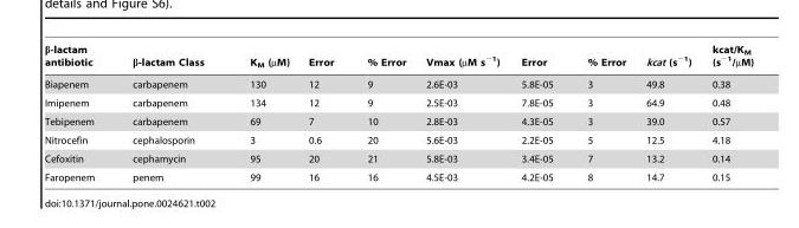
<table><thead><tr><td>β-lactam antibiotic</td><td>β-lactam Class</td><td>K<sub>M</sub> (µM)</td><td>Error</td><td>% Error</td><td>Vmax (µM s<sup>−1</sup>)</td><td>Error</td><td>% Error</td><td>kcat (s<sup>−1</sup>)</td><td>kcat/K<sub>M</sub> (s<sup>−1</sup>/µM)</td></tr></thead><tbody><tr><td>Biapenem</td><td>carbapenem</td><td>130</td><td>12</td><td>9</td><td>2.6E-03</td><td>5.8E-05</td><td>3</td><td>49.8</td><td>0.38</td></tr><tr><td>Imipenem</td><td>carbapenem</td><td>134</td><td>12</td><td>9</td><td>2.5E-03</td><td>7.8E-05</td><td>3</td><td>64.9</td><td>0.48</td></tr><tr><td>Tebipenem</td><td>carbapenem</td><td>69</td><td>7</td><td>10</td><td>2.8E-03</td><td>4.3E-05</td><td>3</td><td>39.0</td><td>0.57</td></tr><tr><td>Nitrocefin</td><td>cephalosporin</td><td>3</td><td>0.6</td><td>20</td><td>5.6E-03</td><td>2.2E-05</td><td>5</td><td>12.5</td><td>4.18</td></tr><tr><td>Cefoxitin</td><td>cephamycin</td><td>95</td><td>20</td><td>21</td><td>5.8E-03</td><td>3.4E-05</td><td>7</td><td>13.2</td><td>0.14</td></tr><tr><td>Faropenem</td><td>penem</td><td>99</td><td>16</td><td>16</td><td>4.5E-03</td><td>4.2E-05</td><td>8</td><td>14.7</td><td>0.15</td></tr></tbody></table>